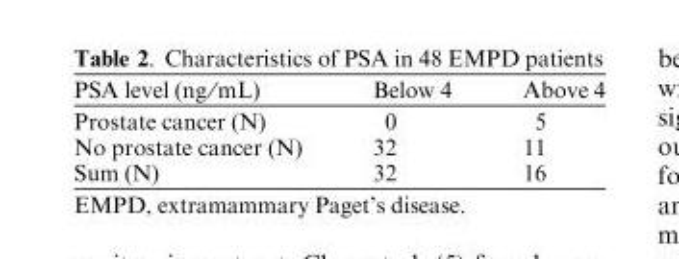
<table><thead><tr><td>PSA level (ng ⁄mL)</td><td>Below 4</td><td>Above 4</td></tr></thead><tbody><tr><td>Prostate cancer (N)</td><td>0</td><td>5</td></tr><tr><td>No prostate cancer (N)</td><td>32</td><td>11</td></tr><tr><td>Sum (N)</td><td>32</td><td>16</td></tr></tbody></table>